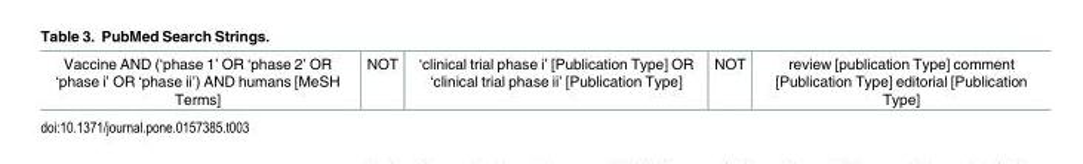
<table><tbody><tr><td>Vaccine AND (‘phase 1’ OR ‘phase 2’ OR ‘phase i’ OR ‘phase ii’) AND humans [MeSH Terms]</td><td>NOT</td><td>‘clinical trial phase i’ [Publication Type] OR ‘clinical trial phase ii’ [Publication Type]</td><td>NOT</td><td>review [publication Type] comment [Publication Type] editorial [Publication Type]</td></tr></tbody></table>